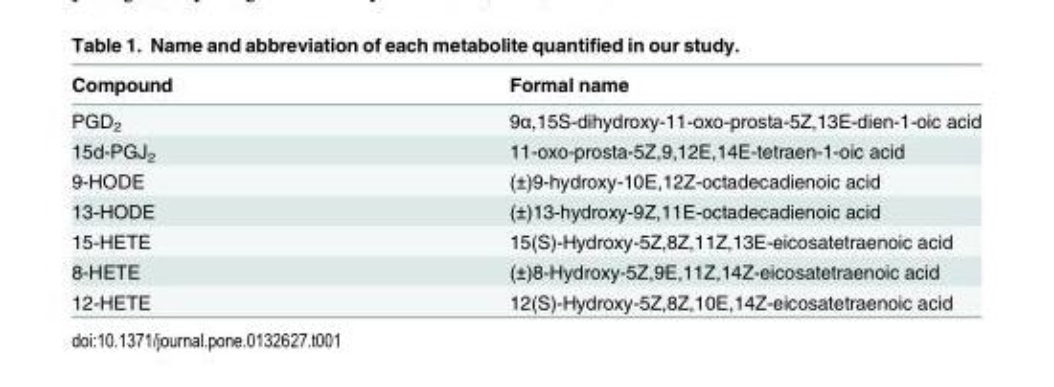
<table><thead><tr><td>Compound</td><td>Formal name</td></tr></thead><tbody><tr><td>PGD<sub>2</sub></td><td>9α,15S-dihydroxy-11-oxo-prosta-5Z,13E-dien-1-oic acid</td></tr><tr><td>15d-PGJ<sub>2</sub></td><td>11-oxo-prosta-5Z,9,12E,14E-tetraen-1-oic acid</td></tr><tr><td>9-HODE</td><td>(±)9-hydroxy-10E,12Z-octadecadienoic acid</td></tr><tr><td>13-HODE</td><td>(±)13-hydroxy-9Z,11E-octadecadienoic acid</td></tr><tr><td>15-HETE</td><td>15(S)-Hydroxy-5Z,8Z,11Z,13E-eicosatetraenoic acid</td></tr><tr><td>8-HETE</td><td>(±)8-Hydroxy-5Z,9E,11Z,14Z-eicosatetraenoic acid</td></tr><tr><td>12-HETE</td><td>12(S)-Hydroxy-5Z,8Z,10E,14Z-eicosatetraenoic acid</td></tr></tbody></table>